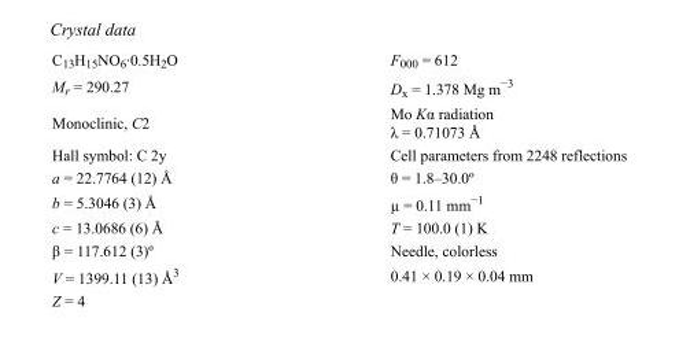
<table><tbody><tr><td>C<sub>13</sub>H<sub>15</sub>NO<sub>6</sub>·0.5H<sub>2</sub>O</td><td>F<sub>000</sub> = 612</td></tr><tr><td>M<sub>r</sub> = 290.27</td><td>D<sub>x</sub> = 1.378 Mg m<sup>−3</sup></td></tr><tr><td>Monoclinic, C2</td><td>Mo Kα radiation λ = 0.71073 Å</td></tr><tr><td>Hall symbol: C 2y</td><td>Cell parameters from 2248 reflections</td></tr><tr><td>a = 22.7764 (12) Å</td><td>θ = 1.8–30.0º</td></tr><tr><td>b = 5.3046 (3) Å</td><td>µ = 0.11 mm<sup>−1</sup></td></tr><tr><td>c = 13.0686 (6) Å</td><td>T = 100.0 (1) K</td></tr><tr><td>β = 117.612 (3)º</td><td>Needle, colorless</td></tr><tr><td>V = 1399.11 (13) Å<sup>3</sup></td><td>0.41 × 0.19 × 0.04 mm</td></tr><tr><td>Z = 4</td><td></td></tr></tbody></table>